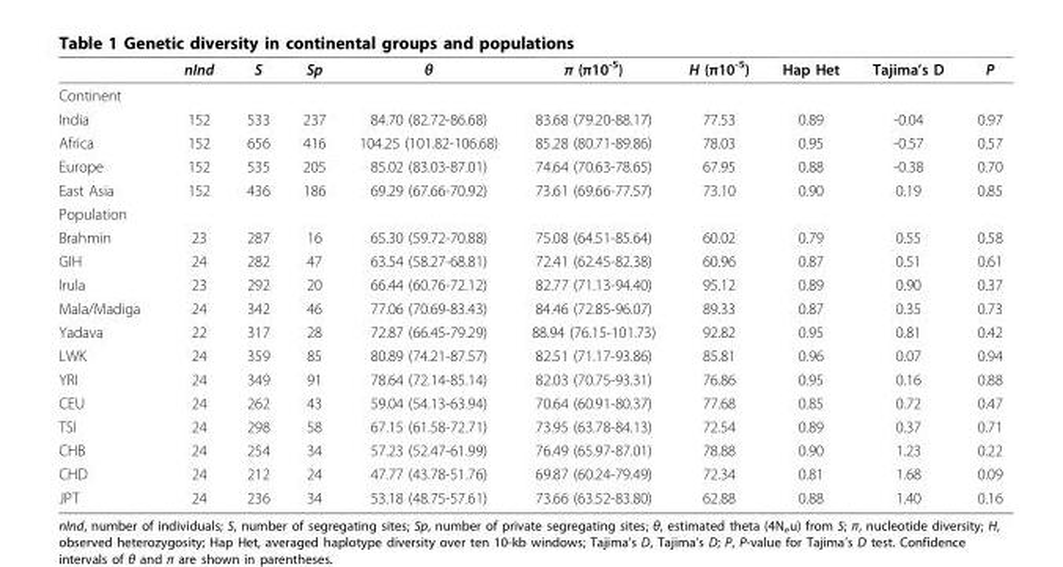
<table><thead><tr><td></td><td>nInd</td><td>S</td><td>Sp</td><td>θ</td><td>π (π10<sup>-5</sup>)</td><td>H (π10<sup>-5</sup>)</td><td>Hap Het</td><td>Tajima’s D</td><td>P</td></tr></thead><tbody><tr><td colspan="10">Continent</td></tr><tr><td>India</td><td>152</td><td>533</td><td>237</td><td>84.70 (82.72-86.68)</td><td>83.68 (79.20-88.17)</td><td>77.53</td><td>0.89</td><td>-0.04</td><td>0.97</td></tr><tr><td>Africa</td><td>152</td><td>656</td><td>416</td><td>104.25 (101.82-106.68)</td><td>85.28 (80.71-89.86)</td><td>78.03</td><td>0.95</td><td>-0.57</td><td>0.57</td></tr><tr><td>Europe</td><td>152</td><td>535</td><td>205</td><td>85.02 (83.03-87.01)</td><td>74.64 (70.63-78.65)</td><td>67.95</td><td>0.88</td><td>-0.38</td><td>0.70</td></tr><tr><td>East Asia</td><td>152</td><td>436</td><td>186</td><td>69.29 (67.66-70.92)</td><td>73.61 (69.66-77.57)</td><td>73.10</td><td>0.90</td><td>0.19</td><td>0.85</td></tr><tr><td colspan="10">Population</td></tr><tr><td>Brahmin</td><td>23</td><td>287</td><td>16</td><td>65.30 (59.72-70.88)</td><td>75.08 (64.51-85.64)</td><td>60.02</td><td>0.79</td><td>0.55</td><td>0.58</td></tr><tr><td>GIH</td><td>24</td><td>282</td><td>47</td><td>63.54 (58.27-68.81)</td><td>72.41 (62.45-82.38)</td><td>60.96</td><td>0.87</td><td>0.51</td><td>0.61</td></tr><tr><td>Irula</td><td>23</td><td>292</td><td>20</td><td>66.44 (60.76-72.12)</td><td>82.77 (71.13-94.40)</td><td>95.12</td><td>0.89</td><td>0.90</td><td>0.37</td></tr><tr><td>Mala/Madiga</td><td>24</td><td>342</td><td>46</td><td>77.06 (70.69-83.43)</td><td>84.46 (72.85-96.07)</td><td>89.33</td><td>0.87</td><td>0.35</td><td>0.73</td></tr><tr><td>Yadava</td><td>22</td><td>317</td><td>28</td><td>72.87 (66.45-79.29)</td><td>88.94 (76.15-101.73)</td><td>92.82</td><td>0.95</td><td>0.81</td><td>0.42</td></tr><tr><td>LWK</td><td>24</td><td>359</td><td>85</td><td>80.89 (74.21-87.57)</td><td>82.51 (71.17-93.86)</td><td>85.81</td><td>0.96</td><td>0.07</td><td>0.94</td></tr><tr><td>YRI</td><td>24</td><td>349</td><td>91</td><td>78.64 (72.14-85.14)</td><td>82.03 (70.75-93.31)</td><td>76.86</td><td>0.95</td><td>0.16</td><td>0.88</td></tr><tr><td>CEU</td><td>24</td><td>262</td><td>43</td><td>59.04 (54.13-63.94)</td><td>70.64 (60.91-80.37)</td><td>77.68</td><td>0.85</td><td>0.72</td><td>0.47</td></tr><tr><td>TSI</td><td>24</td><td>298</td><td>58</td><td>67.15 (61.58-72.71)</td><td>73.95 (63.78-84.13)</td><td>72.54</td><td>0.89</td><td>0.37</td><td>0.71</td></tr><tr><td>CHB</td><td>24</td><td>254</td><td>34</td><td>57.23 (52.47-61.99)</td><td>76.49 (65.97-87.01)</td><td>78.88</td><td>0.90</td><td>1.23</td><td>0.22</td></tr><tr><td>CHD</td><td>24</td><td>212</td><td>24</td><td>47.77 (43.78-51.76)</td><td>69.87 (60.24-79.49)</td><td>72.34</td><td>0.81</td><td>1.68</td><td>0.09</td></tr><tr><td>JPT</td><td>24</td><td>236</td><td>34</td><td>53.18 (48.75-57.61)</td><td>73.66 (63.52-83.80)</td><td>62.88</td><td>0.88</td><td>1.40</td><td>0.16</td></tr></tbody></table>